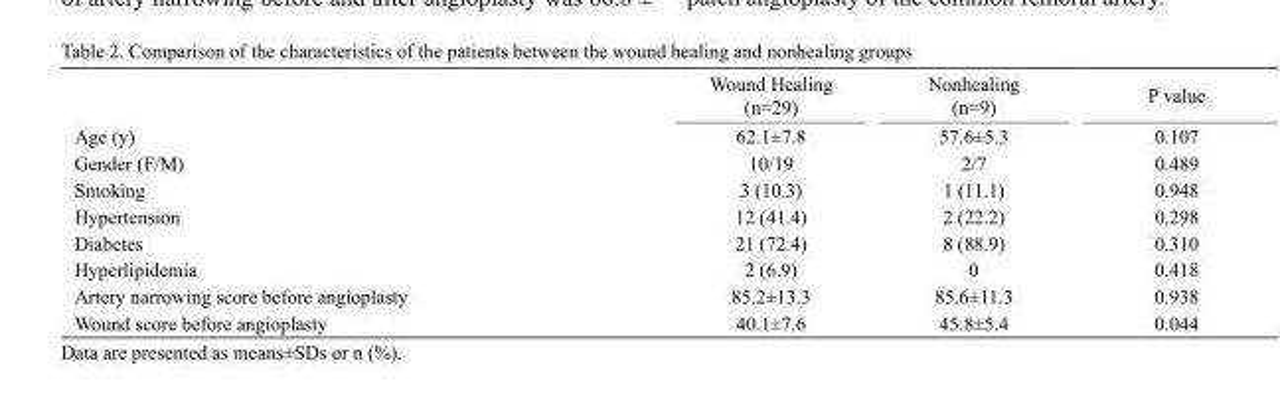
<table><thead><tr><td></td><td>Wound Healing (n=29)</td><td>Nonhealing (n=9)</td><td>P value</td></tr></thead><tbody><tr><td>Age (y)</td><td>62.1±7.8</td><td>57.6±5.3</td><td>0.107</td></tr><tr><td>Gender (F/M)</td><td>10/19</td><td>2/7</td><td>0.489</td></tr><tr><td>Smoking</td><td>3 (10.3)</td><td>1 (11.1)</td><td>0.948</td></tr><tr><td>Hypertension</td><td>12 (41.4)</td><td>2 (22.2)</td><td>0.298</td></tr><tr><td>Diabetes</td><td>21 (72.4)</td><td>8 (88.9)</td><td>0.310</td></tr><tr><td>Hyperlipidemia</td><td>2 (6.9)</td><td>0</td><td>0.418</td></tr><tr><td>Artery narrowing score before angioplasty</td><td>85.2±13.3</td><td>85.6±11.3</td><td>0.938</td></tr><tr><td>Wound score before angioplasty</td><td>40.1±7.6</td><td>45.8±5.4</td><td>0.044</td></tr></tbody></table>